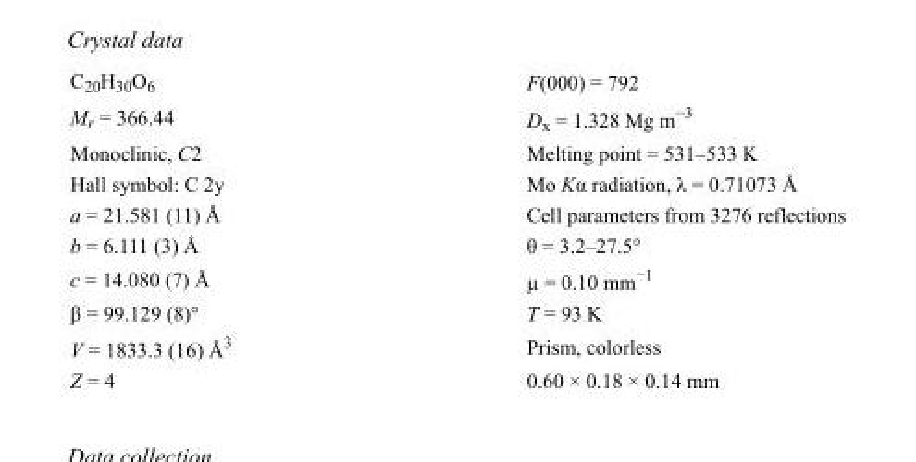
<table><tbody><tr><td>C<sub>20</sub>H<sub>30</sub>O<sub>6</sub></td><td>F(000) = 792</td></tr><tr><td>M<sub>r</sub> = 366.44</td><td>D<sub>x</sub> = 1.328 Mg m<sup>−3</sup></td></tr><tr><td>Monoclinic, C2</td><td>Melting point = 531–533 K</td></tr><tr><td>Hall symbol: C 2y</td><td>Mo Kα radiation, λ = 0.71073 Å</td></tr><tr><td>a = 21.581 (11) Å</td><td>Cell parameters from 3276 reflections</td></tr><tr><td>b = 6.111 (3) Å</td><td>θ = 3.2–27.5°</td></tr><tr><td>c = 14.080 (7) Å</td><td>µ = 0.10 mm<sup>−1</sup></td></tr><tr><td>β = 99.129 (8)°</td><td>T = 93 K</td></tr><tr><td>V = 1833.3 (16) Å<sup>3</sup></td><td>Prism, colorless</td></tr><tr><td>Z = 4</td><td>0.60 × 0.18 × 0.14 mm</td></tr></tbody></table>